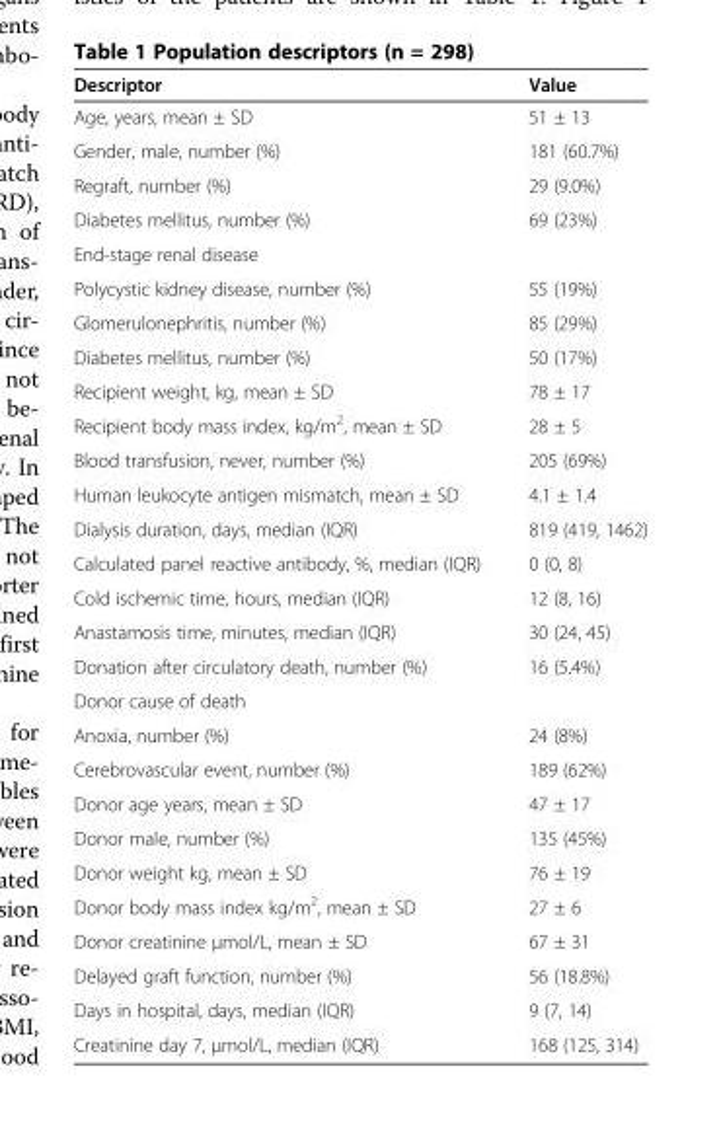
<table><thead><tr><td>Descriptor</td><td>Value</td></tr></thead><tbody><tr><td>Age, years, mean ± SD</td><td>51 ± 13</td></tr><tr><td>Gender, male, number (%)</td><td>181 (60.7%)</td></tr><tr><td>Regraft, number (%)</td><td>29 (9.0%)</td></tr><tr><td>Diabetes mellitus, number (%)</td><td>69 (23%)</td></tr><tr><td colspan="2">End-stage renal disease</td></tr><tr><td>Polycystic kidney disease, number (%)</td><td>55 (19%)</td></tr><tr><td>Glomerulonephritis, number (%)</td><td>85 (29%)</td></tr><tr><td>Diabetes mellitus, number (%)</td><td>50 (17%)</td></tr><tr><td>Recipient weight, kg, mean ± SD</td><td>78 ± 17</td></tr><tr><td>Recipient body mass index, kg/m<sup>2</sup>, mean ± SD</td><td>28 ± 5</td></tr><tr><td>Blood transfusion, never, number (%)</td><td>205 (69%)</td></tr><tr><td>Human leukocyte antigen mismatch, mean ± SD</td><td>4.1 ± 1.4</td></tr><tr><td>Dialysis duration, days, median (IQR)</td><td>819 (419, 1462)</td></tr><tr><td>Calculated panel reactive antibody, %, median (IQR)</td><td>0 (0, 8)</td></tr><tr><td>Cold ischemic time, hours, median (IQR)</td><td>12 (8, 16)</td></tr><tr><td>Anastamosis time, minutes, median (IQR)</td><td>30 (24, 45)</td></tr><tr><td>Donation after circulatory death, number (%)</td><td>16 (5.4%)</td></tr><tr><td colspan="2">Donor cause of death</td></tr><tr><td>Anoxia, number (%)</td><td>24 (8%)</td></tr><tr><td>Cerebrovascular event, number (%)</td><td>189 (62%)</td></tr><tr><td>Donor age years, mean ± SD</td><td>47 ± 17</td></tr><tr><td>Donor male, number (%)</td><td>135 (45%)</td></tr><tr><td>Donor weight kg, mean ± SD</td><td>76 ± 19</td></tr><tr><td>Donor body mass index kg/m<sup>2</sup>, mean ± SD</td><td>27 ± 6</td></tr><tr><td>Donor creatinine μmol/L, mean ± SD</td><td>67 ± 31</td></tr><tr><td>Delayed graft function, number (%)</td><td>56 (18.8%)</td></tr><tr><td>Days in hospital, days, median (IQR)</td><td>9 (7, 14)</td></tr><tr><td>Creatinine day 7, μmol/L, median (IQR)</td><td>168 (125, 314)</td></tr></tbody></table>